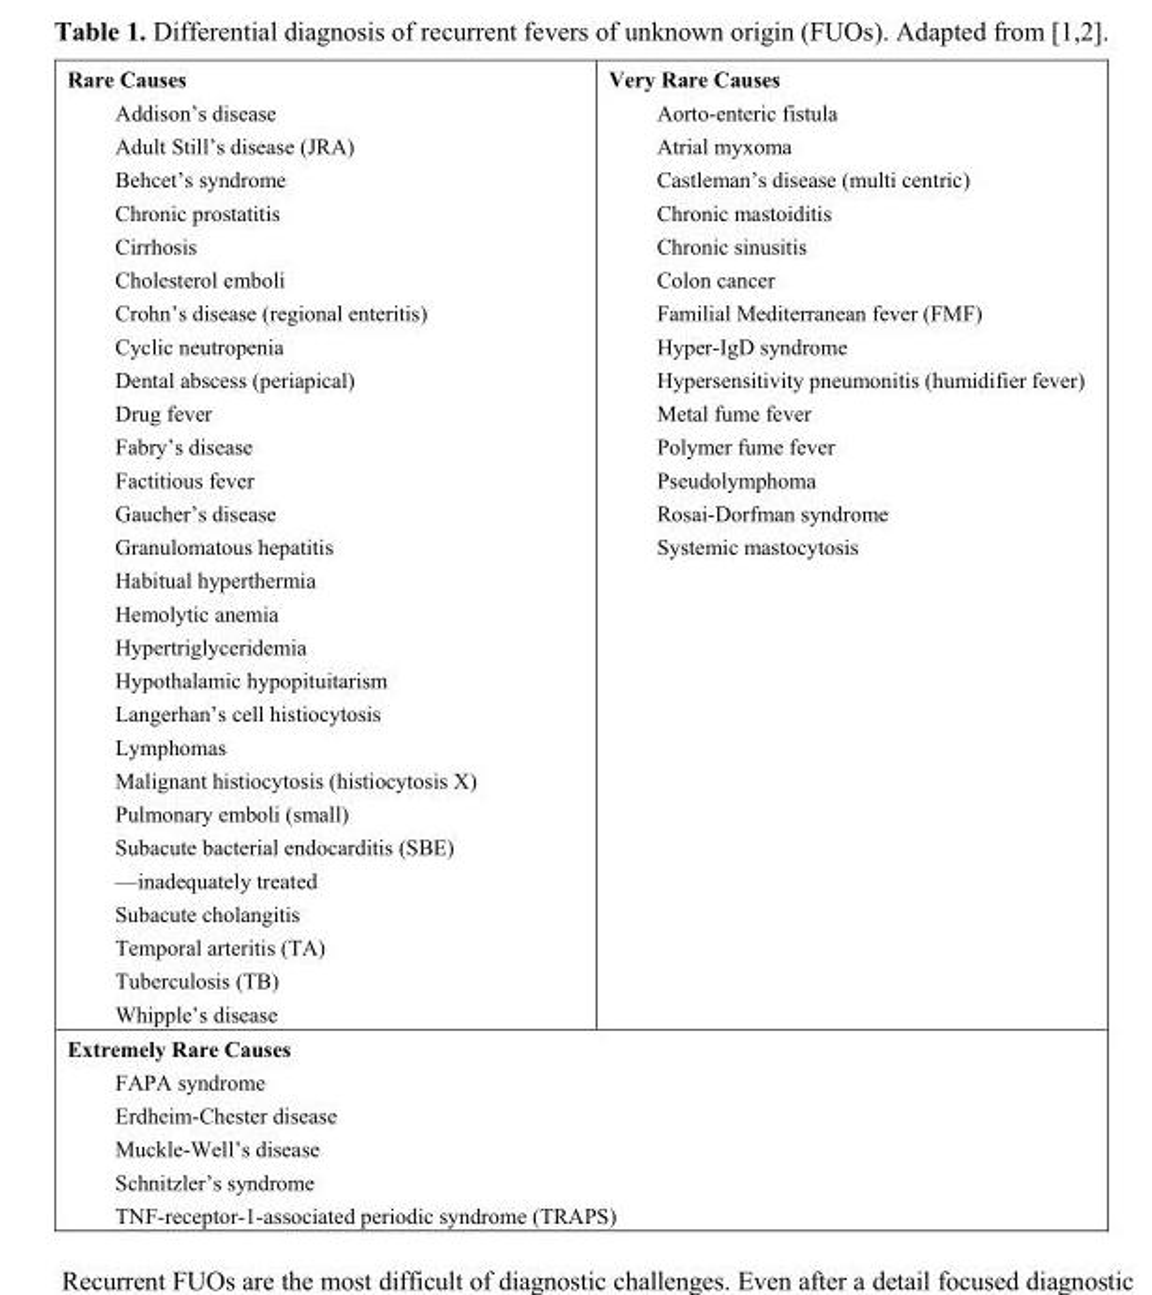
<table><tbody><tr><td>Rare Causes Addison’s disease Adult Still’s disease (JRA) Behcet’s syndrome Chronic prostatitis Cirrhosis Cholesterol emboli Crohn’s disease (regional enteritis) Cyclic neutropenia Dental abscess (periapical) Drug fever Fabry’s disease Factitious fever Gaucher’s disease Granulomatous hepatitis Habitual hyperthermia Hemolytic anemia Hypertriglyceridemia Hypothalamic hypopituitarism Langerhan’s cell histiocytosis Lymphomas Malignant histiocytosis (histiocytosis X) Pulmonary emboli (small) Subacute bacterial endocarditis (SBE) —inadequately treated Subacute cholangitis Temporal arteritis (TA) Tuberculosis (TB) Whipple’s disease</td><td>Very Rare Causes Aorto-enteric fistula Atrial myxoma Castleman’s disease (multi centric) Chronic mastoiditis Chronic sinusitis Colon cancer Familial Mediterranean fever (FMF) Hyper-IgD syndrome Hypersensitivity pneumonitis (humidifier fever) Metal fume fever Polymer fume fever Pseudolymphoma Rosai-Dorfman syndrome Systemic mastocytosis</td></tr><tr><td colspan="2">Extremely Rare Causes FAPA syndrome Erdheim-Chester disease Muckle-Well’s disease Schnitzler’s syndrome TNF-receptor-1-associated periodic syndrome (TRAPS)</td></tr></tbody></table>